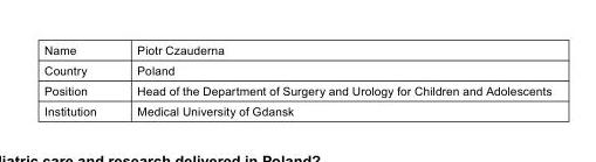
<table><tbody><tr><td>Name</td><td>Piotr Czauderna</td></tr><tr><td>Country</td><td>Poland</td></tr><tr><td>Position</td><td>Head of the Department of Surgery and Urology for Children and Adolescents</td></tr><tr><td>Institution</td><td>Medical University of Gdansk</td></tr></tbody></table>